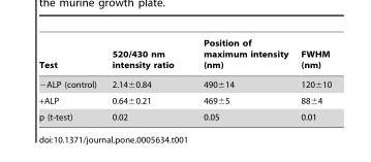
<table><thead><tr><td>Test</td><td>520/430 nm intensity ratio</td><td>Position of maximum intensity (nm)</td><td>FWHM (nm)</td></tr></thead><tbody><tr><td>−ALP (control)</td><td>2.14±0.84</td><td>490±14</td><td>120±10</td></tr><tr><td>+ALP</td><td>0.64±0.21</td><td>469±5</td><td>88±4</td></tr><tr><td>p (t-test)</td><td>0.02</td><td>0.05</td><td>0.01</td></tr></tbody></table>